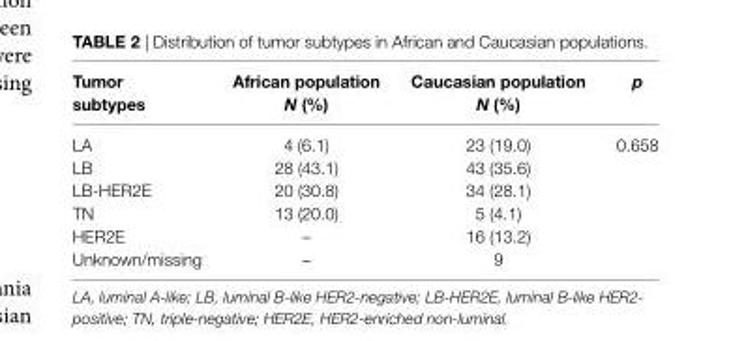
<table><thead><tr><td>Tumor subtypes</td><td>african population N (%)</td><td>caucasian population N (%)</td><td>p</td></tr></thead><tbody><tr><td>LA</td><td>4 (6.1)</td><td>23 (19.0)</td><td rowspan="5">0.658</td></tr><tr><td>LB</td><td>28 (43.1)</td><td>43 (35.6)</td></tr><tr><td>LB-HER2E</td><td>20 (30.8)</td><td>34 (28.1)</td></tr><tr><td>TN</td><td>13 (20.0)</td><td>5 (4.1)</td></tr><tr><td>HER2E</td><td>–</td><td>16 (13.2)</td></tr><tr><td>Unknown/missing</td><td>–</td><td>9</td><td></td></tr></tbody></table>